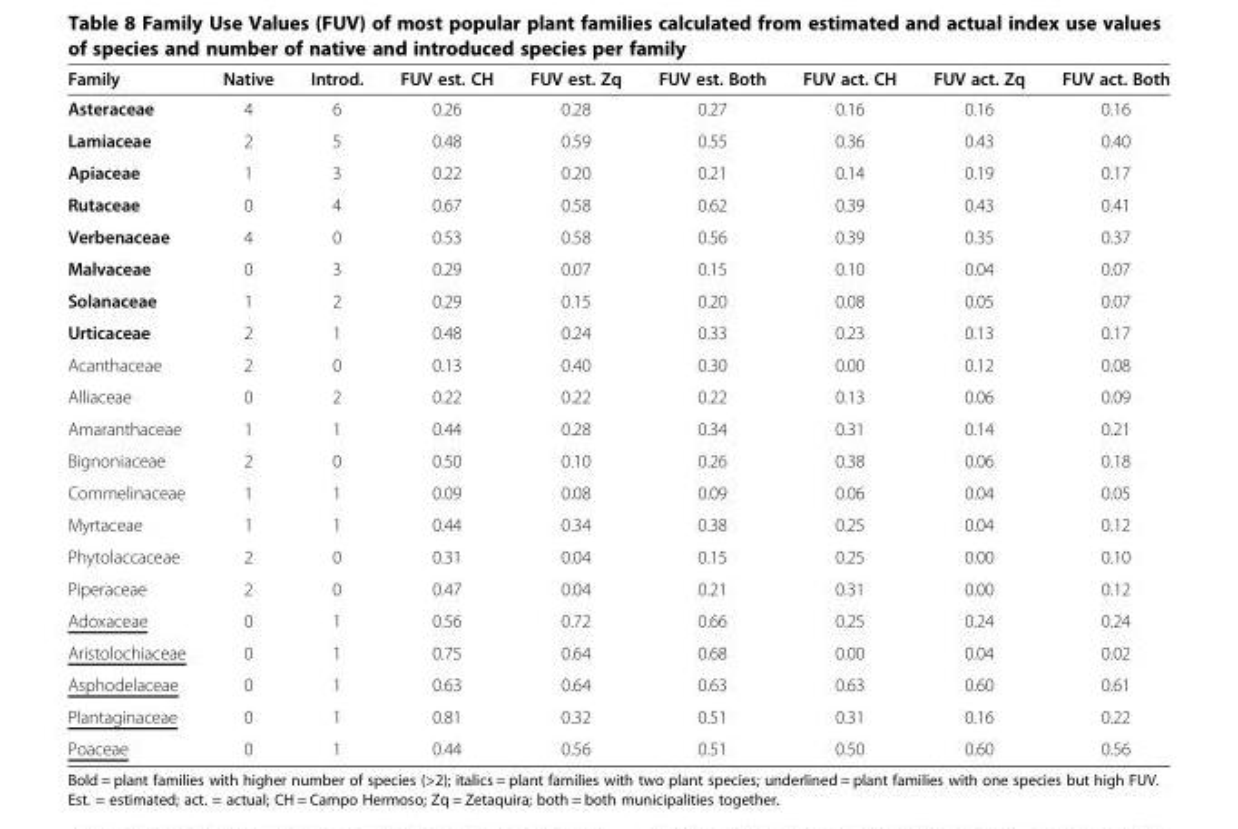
<table><thead><tr><td>Family</td><td>Native</td><td>Introd.</td><td>FUV est. CH</td><td>FUV est. Zq</td><td>FUV est. Both</td><td>FUV act. CH</td><td>FUV act. Zq</td><td>FUV act. Both</td></tr></thead><tbody><tr><td>Asteraceae</td><td>4</td><td>6</td><td>0.26</td><td>0.28</td><td>0.27</td><td>0.16</td><td>0.16</td><td>0.16</td></tr><tr><td>Lamiaceae</td><td>2</td><td>5</td><td>0.48</td><td>0.59</td><td>0.55</td><td>0.36</td><td>0.43</td><td>0.40</td></tr><tr><td>Apiaceae</td><td>1</td><td>3</td><td>0.22</td><td>0.20</td><td>0.21</td><td>0.14</td><td>0.19</td><td>0.17</td></tr><tr><td>Rutaceae</td><td>0</td><td>4</td><td>0.67</td><td>0.58</td><td>0.62</td><td>0.39</td><td>0.43</td><td>0.41</td></tr><tr><td>Verbenaceae</td><td>4</td><td>0</td><td>0.53</td><td>0.58</td><td>0.56</td><td>0.39</td><td>0.35</td><td>0.37</td></tr><tr><td>Malvaceae</td><td>0</td><td>3</td><td>0.29</td><td>0.07</td><td>0.15</td><td>0.10</td><td>0.04</td><td>0.07</td></tr><tr><td>Solanaceae</td><td>1</td><td>2</td><td>0.29</td><td>0.15</td><td>0.20</td><td>0.08</td><td>0.05</td><td>0.07</td></tr><tr><td>Urticaceae</td><td>2</td><td>1</td><td>0.48</td><td>0.24</td><td>0.33</td><td>0.23</td><td>0.13</td><td>0.17</td></tr><tr><td>Acanthaceae</td><td>2</td><td>0</td><td>0.13</td><td>0.40</td><td>0.30</td><td>0.00</td><td>0.12</td><td>0.08</td></tr><tr><td>Alliaceae</td><td>0</td><td>2</td><td>0.22</td><td>0.22</td><td>0.22</td><td>0.13</td><td>0.06</td><td>0.09</td></tr><tr><td>Amaranthaceae</td><td>1</td><td>1</td><td>0.44</td><td>0.28</td><td>0.34</td><td>0.31</td><td>0.14</td><td>0.21</td></tr><tr><td>Bignoniaceae</td><td>2</td><td>0</td><td>0.50</td><td>0.10</td><td>0.26</td><td>0.38</td><td>0.06</td><td>0.18</td></tr><tr><td>Commelinaceae</td><td>1</td><td>1</td><td>0.09</td><td>0.08</td><td>0.09</td><td>0.06</td><td>0.04</td><td>0.05</td></tr><tr><td>Myrtaceae</td><td>1</td><td>1</td><td>0.44</td><td>0.34</td><td>0.38</td><td>0.25</td><td>0.04</td><td>0.12</td></tr><tr><td>Phytolaccaceae</td><td>2</td><td>0</td><td>0.31</td><td>0.04</td><td>0.15</td><td>0.25</td><td>0.00</td><td>0.10</td></tr><tr><td>Piperaceae</td><td>2</td><td>0</td><td>0.47</td><td>0.04</td><td>0.21</td><td>0.31</td><td>0.00</td><td>0.12</td></tr><tr><td>Adoxaceae</td><td>0</td><td>1</td><td>0.56</td><td>0.72</td><td>0.66</td><td>0.25</td><td>0.24</td><td>0.24</td></tr><tr><td>Aristolochiaceae</td><td>0</td><td>1</td><td>0.75</td><td>0.64</td><td>0.68</td><td>0.00</td><td>0.04</td><td>0.02</td></tr><tr><td>Asphodelaceae</td><td>0</td><td>1</td><td>0.63</td><td>0.64</td><td>0.63</td><td>0.63</td><td>0.60</td><td>0.61</td></tr><tr><td>Plantaginaceae</td><td>0</td><td>1</td><td>0.81</td><td>0.32</td><td>0.51</td><td>0.31</td><td>0.16</td><td>0.22</td></tr><tr><td>Poaceae</td><td>0</td><td>1</td><td>0.44</td><td>0.56</td><td>0.51</td><td>0.50</td><td>0.60</td><td>0.56</td></tr></tbody></table>